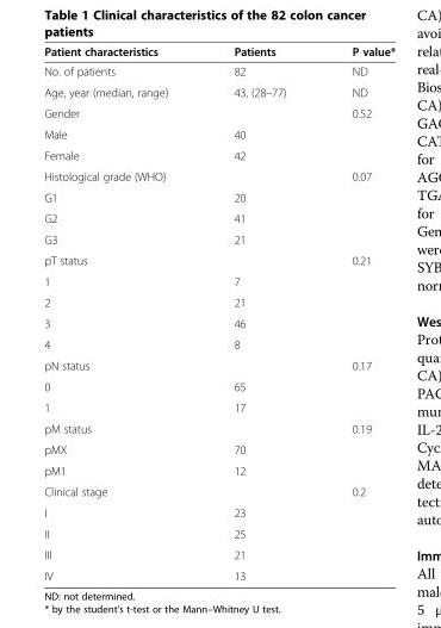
<table><thead><tr><td>Patient characteristics</td><td>Patients</td><td>P value*</td></tr></thead><tbody><tr><td>No. of patients</td><td>82</td><td>ND</td></tr><tr><td>Age, year (median, range)</td><td>43, (28–77)</td><td>ND</td></tr><tr><td>Gender</td><td></td><td>0.52</td></tr><tr><td>Male</td><td>40</td><td></td></tr><tr><td>Female</td><td>42</td><td></td></tr><tr><td>Histological grade (WHO)</td><td></td><td>0.07</td></tr><tr><td>G1</td><td>20</td><td></td></tr><tr><td>G2</td><td>41</td><td></td></tr><tr><td>G3</td><td>21</td><td></td></tr><tr><td>pT status</td><td></td><td>0.21</td></tr><tr><td>1</td><td>7</td><td></td></tr><tr><td>2</td><td>21</td><td></td></tr><tr><td>3</td><td>46</td><td></td></tr><tr><td>4</td><td>8</td><td></td></tr><tr><td>pN status</td><td></td><td>0.17</td></tr><tr><td>0</td><td>65</td><td></td></tr><tr><td>1</td><td>17</td><td></td></tr><tr><td>pM status</td><td></td><td>0.19</td></tr><tr><td>pMX</td><td>70</td><td></td></tr><tr><td>pM1</td><td>12</td><td></td></tr><tr><td>Clinical stage</td><td></td><td>0.2</td></tr><tr><td>I</td><td>23</td><td></td></tr><tr><td>II</td><td>25</td><td></td></tr><tr><td>III</td><td>21</td><td></td></tr><tr><td>IV</td><td>13</td><td></td></tr></tbody></table>